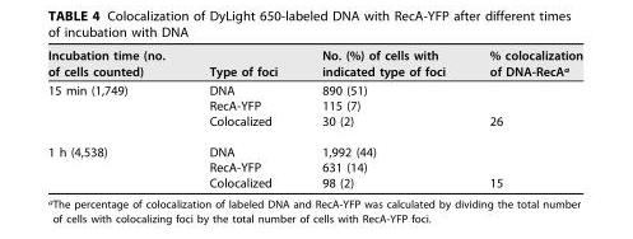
<table><thead><tr><td>Incubation time (no. of cells counted)</td><td>Type of foci</td><td>No. (%) of cells with indicated type of foci</td><td>% colocalization of DNA-RecA<sup>a</sup></td></tr></thead><tbody><tr><td rowspan="3">15 min (1,749)</td><td>DNA</td><td>890 (51)</td><td></td></tr><tr><td>RecA-YFP</td><td>115 (7)</td><td></td></tr><tr><td>Colocalized</td><td>30 (2)</td><td>26</td></tr><tr><td rowspan="3">1 h (4,538)</td><td>DNA</td><td>1,992 (44)</td><td></td></tr><tr><td>RecA-YFP</td><td>631 (14)</td><td></td></tr><tr><td>Colocalized</td><td>98 (2)</td><td>15</td></tr></tbody></table>